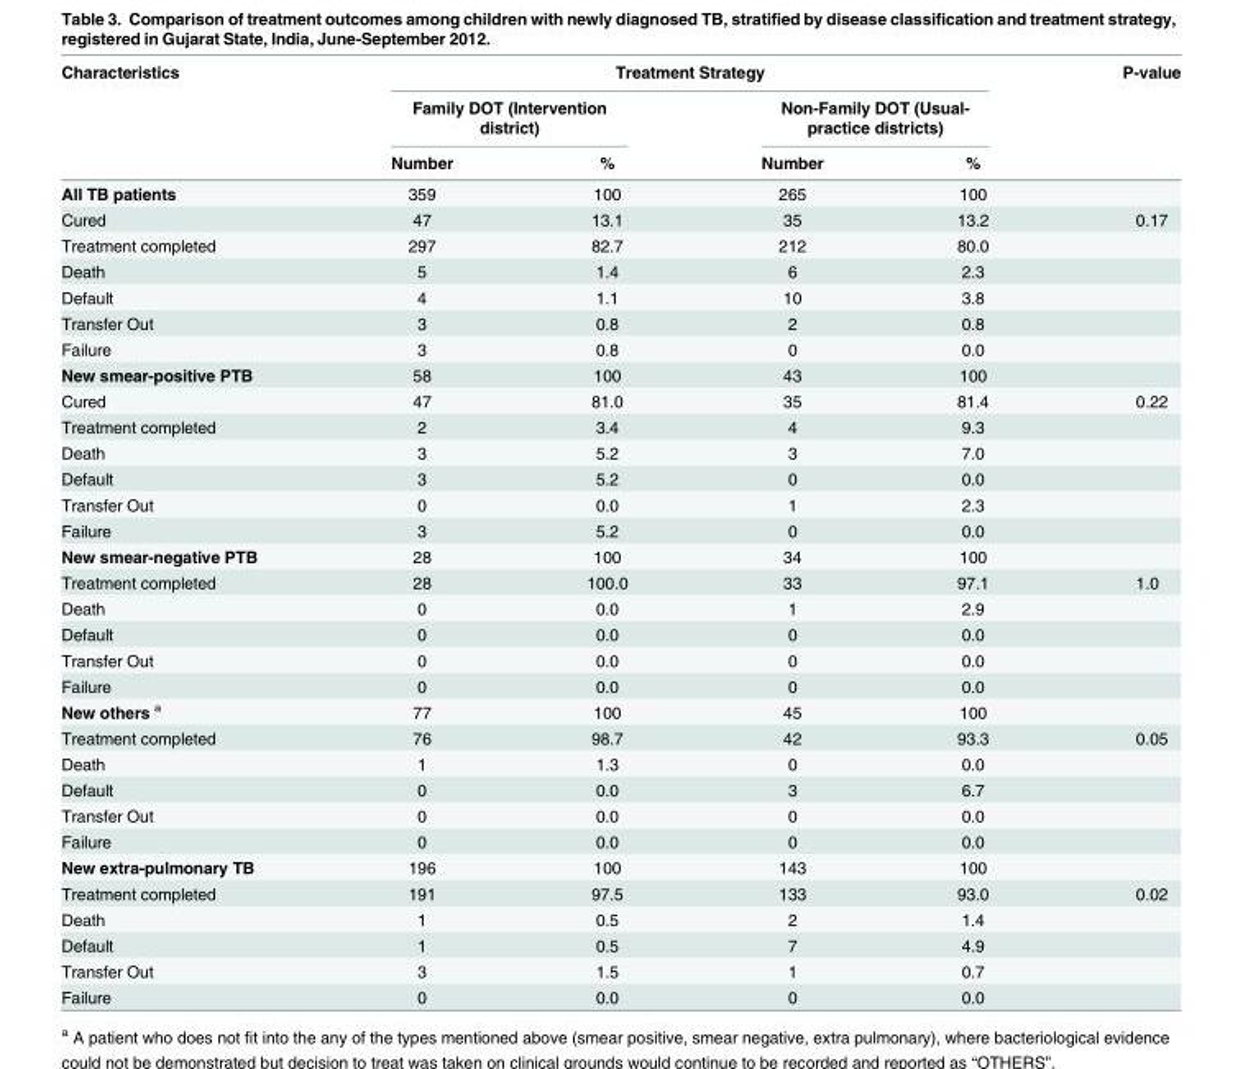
<table><thead><tr><td rowspan="3">Characteristics</td><td colspan="4">Treatment Strategy</td><td rowspan="3">P-value</td></tr><tr><td colspan="2">Family DOT (Intervention district)</td><td colspan="2">Non-Family DOT (Usual- practice districts)</td></tr><tr><td>Number</td><td>%</td><td>Number</td><td>%</td></tr></thead><tbody><tr><td>All TB patients</td><td>359</td><td>100</td><td>265</td><td>100</td><td></td></tr><tr><td>Cured</td><td>47</td><td>13.1</td><td>35</td><td>13.2</td><td>0.17</td></tr><tr><td>Treatment completed</td><td>297</td><td>82.7</td><td>212</td><td>80.0</td><td></td></tr><tr><td>Death</td><td>5</td><td>1.4</td><td>6</td><td>2.3</td><td></td></tr><tr><td>Default</td><td>4</td><td>1.1</td><td>10</td><td>3.8</td><td></td></tr><tr><td>Transfer Out</td><td>3</td><td>0.8</td><td>2</td><td>0.8</td><td></td></tr><tr><td>Failure</td><td>3</td><td>0.8</td><td>0</td><td>0.0</td><td></td></tr><tr><td>New smear-positive PTB</td><td>58</td><td>100</td><td>43</td><td>100</td><td></td></tr><tr><td>Cured</td><td>47</td><td>81.0</td><td>35</td><td>81.4</td><td>0.22</td></tr><tr><td>Treatment completed</td><td>2</td><td>3.4</td><td>4</td><td>9.3</td><td></td></tr><tr><td>Death</td><td>3</td><td>5.2</td><td>3</td><td>7.0</td><td></td></tr><tr><td>Default</td><td>3</td><td>5.2</td><td>0</td><td>0.0</td><td></td></tr><tr><td>Transfer Out</td><td>0</td><td>0.0</td><td>1</td><td>2.3</td><td></td></tr><tr><td>Failure</td><td>3</td><td>5.2</td><td>0</td><td>0.0</td><td></td></tr><tr><td>New smear-negative PTB</td><td>28</td><td>100</td><td>34</td><td>100</td><td></td></tr><tr><td>Treatment completed</td><td>28</td><td>100.0</td><td>33</td><td>97.1</td><td>1.0</td></tr><tr><td>Death</td><td>0</td><td>0.0</td><td>1</td><td>2.9</td><td></td></tr><tr><td>Default</td><td>0</td><td>0.0</td><td>0</td><td>0.0</td><td></td></tr><tr><td>Transfer Out</td><td>0</td><td>0.0</td><td>0</td><td>0.0</td><td></td></tr><tr><td>Failure</td><td>0</td><td>0.0</td><td>0</td><td>0.0</td><td></td></tr><tr><td>New others <sup>a</sup></td><td>77</td><td>100</td><td>45</td><td>100</td><td></td></tr><tr><td>Treatment completed</td><td>76</td><td>98.7</td><td>42</td><td>93.3</td><td>0.05</td></tr><tr><td>Death</td><td>1</td><td>1.3</td><td>0</td><td>0.0</td><td></td></tr><tr><td>Default</td><td>0</td><td>0.0</td><td>3</td><td>6.7</td><td></td></tr><tr><td>Transfer Out</td><td>0</td><td>0.0</td><td>0</td><td>0.0</td><td></td></tr><tr><td>Failure</td><td>0</td><td>0.0</td><td>0</td><td>0.0</td><td></td></tr><tr><td>New extra-pulmonary TB</td><td>196</td><td>100</td><td>143</td><td>100</td><td></td></tr><tr><td>Treatment completed</td><td>191</td><td>97.5</td><td>133</td><td>93.0</td><td>0.02</td></tr><tr><td>Death</td><td>1</td><td>0.5</td><td>2</td><td>1.4</td><td></td></tr><tr><td>Default</td><td>1</td><td>0.5</td><td>7</td><td>4.9</td><td></td></tr><tr><td>Transfer Out</td><td>3</td><td>1.5</td><td>1</td><td>0.7</td><td></td></tr><tr><td>Failure</td><td>0</td><td>0.0</td><td>0</td><td>0.0</td><td></td></tr></tbody></table>